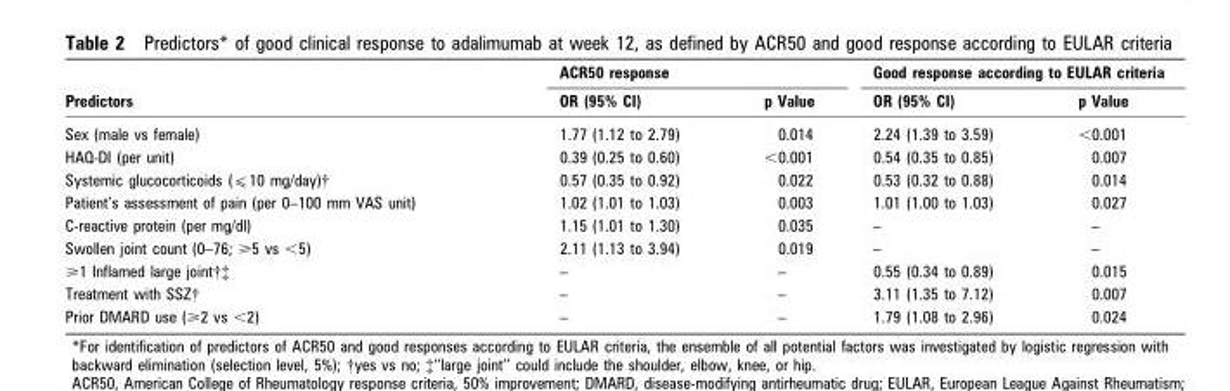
<table><thead><tr><td rowspan="2">Predictors</td><td colspan="2">ACR50 response</td><td colspan="2">Good response according to EULAR criteria</td></tr><tr><td>OR (95% CI)</td><td>p Value</td><td>OR (95% CI)</td><td>p Value</td></tr></thead><tbody><tr><td>Sex (male vs female)</td><td>1.77 (1.12 to 2.79)</td><td>0.014</td><td>2.24 (1.39 to 3.59)</td><td>&lt;0.001</td></tr><tr><td>HAQ-DI (per unit)</td><td>0.39 (0.25 to 0.60)</td><td>&lt;0.001</td><td>0.54 (0.35 to 0.85)</td><td>0.007</td></tr><tr><td>Systemic glucocorticoids (⩽10 mg/day)†</td><td>0.57 (0.35 to 0.92)</td><td>0.022</td><td>0.53 (0.32 to 0.88)</td><td>0.014</td></tr><tr><td>Patient’s assessment of pain (per 0–100 mm VAS unit)</td><td>1.02 (1.01 to 1.03)</td><td>0.003</td><td>1.01 (1.00 to 1.03)</td><td>0.027</td></tr><tr><td>C-reactive protein (per mg/dl)</td><td>1.15 (1.01 to 1.30)</td><td>0.035</td><td>–</td><td>–</td></tr><tr><td>Swollen joint count (0–76; &gt;5 vs ,5)</td><td>2.11 (1.13 to 3.94)</td><td>0.019</td><td>–</td><td>–</td></tr><tr><td>&gt;1 Inflamed large joint{{</td><td>–</td><td>–</td><td>0.55 (0.34 to 0.89)</td><td>0.015</td></tr><tr><td>Treatment with SSZ†</td><td>–</td><td>–</td><td>3.11 (1.35 to 7.12)</td><td>0.007</td></tr><tr><td>Prior DMARD use (&gt;2 vs ,2)</td><td>–</td><td>–</td><td>1.79 (1.08 to 2.96)</td><td>0.024</td></tr></tbody></table>